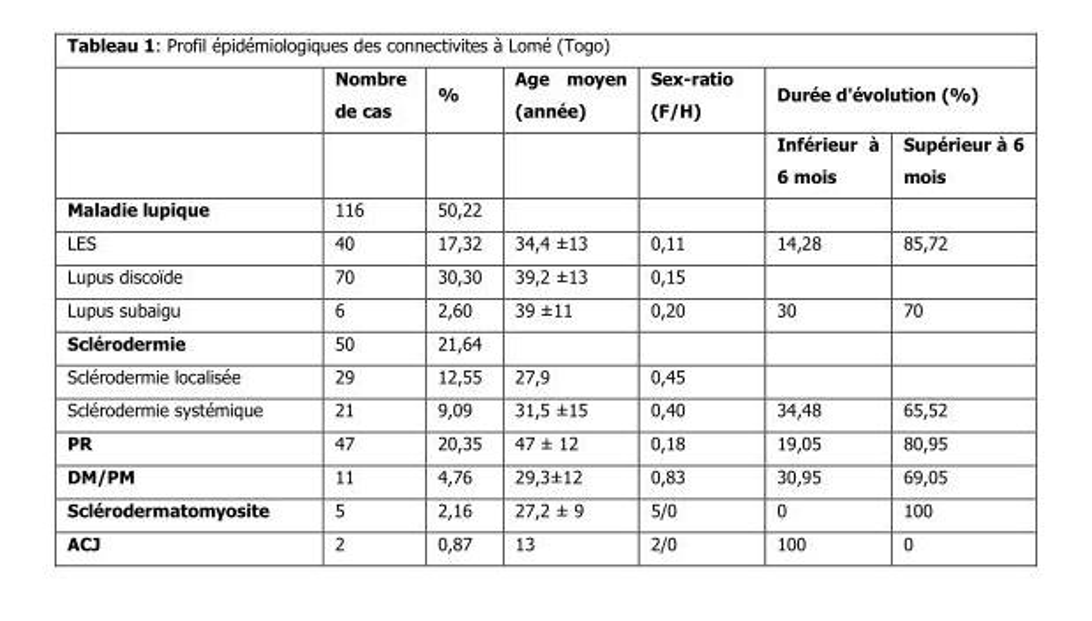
<table><thead><tr><td rowspan="2"></td><td rowspan="2">Nombre de cas</td><td rowspan="2">%</td><td rowspan="2">Age moyen (année)</td><td rowspan="2">Sex-ratio (F/H)</td><td colspan="2">Durée d&#x27;évolution (%)</td></tr><tr><td>Inférieur à 6 mois</td><td>Supérieur à 6 mois</td></tr></thead><tbody><tr><td>Maladie lupique</td><td>116</td><td>50,22</td><td></td><td></td><td></td><td></td></tr><tr><td>LES</td><td>40</td><td>17,32</td><td>34,4 ±13</td><td>0,11</td><td>14,28</td><td>85,72</td></tr><tr><td>Lupus discoïde</td><td>70</td><td>30,30</td><td>39,2 ±13</td><td>0,15</td><td></td><td></td></tr><tr><td>Lupus subaigu</td><td>6</td><td>2,60</td><td>39 ±11</td><td>0,20</td><td>30</td><td>70</td></tr><tr><td>Sclérodermie</td><td>50</td><td>21,64</td><td></td><td></td><td></td><td></td></tr><tr><td>Sclérodermie localisée</td><td>29</td><td>12,55</td><td>27,9</td><td>0,45</td><td></td><td></td></tr><tr><td>Sclérodermie systémique</td><td>21</td><td>9,09</td><td>31,5 ±15</td><td>0,40</td><td>34,48</td><td>65,52</td></tr><tr><td>PR</td><td>47</td><td>20,35</td><td>47 ± 12</td><td>0,18</td><td>19,05</td><td>80,95</td></tr><tr><td>DM/PM</td><td>11</td><td>4,76</td><td>29,3±12</td><td>0,83</td><td>30,95</td><td>69,05</td></tr><tr><td>Sclérodermatomyosite</td><td>5</td><td>2,16</td><td>27,2 ± 9</td><td>5/0</td><td>0</td><td>100</td></tr><tr><td>ACJ</td><td>2</td><td>0,87</td><td>13</td><td>2/0</td><td>100</td><td>0</td></tr></tbody></table>